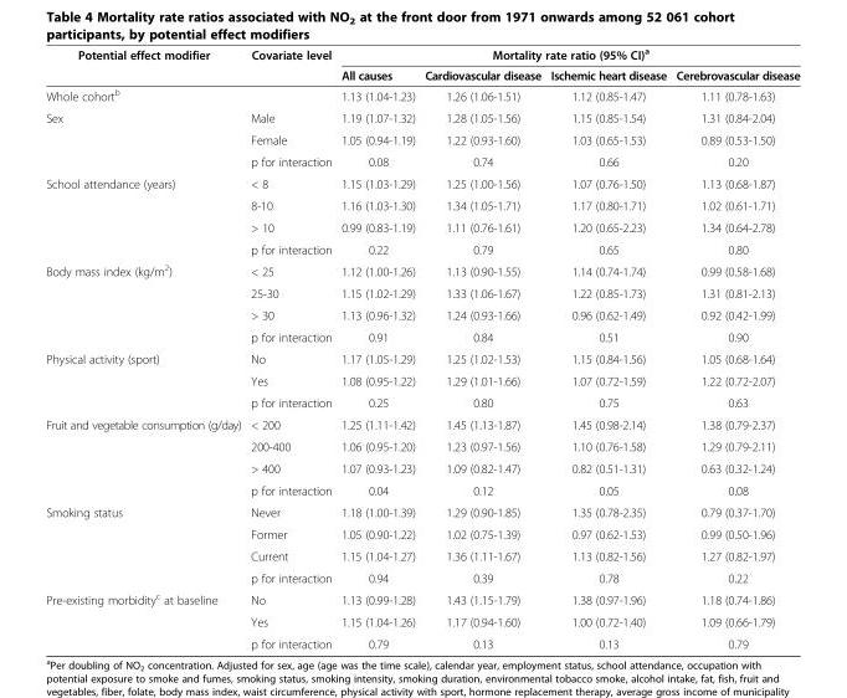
<table><thead><tr><td rowspan="2">Potential effect modifier</td><td rowspan="2">Covariate level</td><td colspan="4">Mortality rate ratio (95% CI)<sup>a</sup></td></tr><tr><td>All causes</td><td>Cardiovascular disease</td><td>Ischemic heart disease</td><td>Cerebrovascular disease</td></tr></thead><tbody><tr><td>Whole cohort<sup>b</sup></td><td></td><td>1.13 (1.04-1.23)</td><td>1.26 (1.06-1.51)</td><td>1.12 (0.85-1.47)</td><td>1.11 (0.78-1.63)</td></tr><tr><td rowspan="3">Sex</td><td>Male</td><td>1.19 (1.07-1.32)</td><td>1.28 (1.05-1.56)</td><td>1.15 (0.85-1.54)</td><td>1.31 (0.84-2.04)</td></tr><tr><td>Female</td><td>1.05 (0.94-1.19)</td><td>1.22 (0.93-1.60)</td><td>1.03 (0.65-1.53)</td><td>0.89 (0.53-1.50)</td></tr><tr><td>p for interaction</td><td>0.08</td><td>0.74</td><td>0.66</td><td>0.20</td></tr><tr><td rowspan="4">School attendance (years)</td><td>&lt; 8</td><td>1.15 (1.03-1.29)</td><td>1.25 (1.00-1.56)</td><td>1.07 (0.76-1.50)</td><td>1.13 (0.68-1.87)</td></tr><tr><td>8-10</td><td>1.16 (1.03-1.30)</td><td>1.34 (1.05-1.71)</td><td>1.17 (0.80-1.71)</td><td>1.02 (0.61-1.71)</td></tr><tr><td>&gt; 10</td><td>0.99 (0.83-1.19)</td><td>1.11 (0.76-1.61)</td><td>1.20 (0.65-2.23)</td><td>1.34 (0.64-2.78)</td></tr><tr><td>p for interaction</td><td>0.22</td><td>0.79</td><td>0.65</td><td>0.80</td></tr><tr><td rowspan="4">Body mass index (kg/m<sup>2</sup>)</td><td>&lt; 25</td><td>1.12 (1.00-1.26)</td><td>1.13 (0.90-1.55)</td><td>1.14 (0.74-1.74)</td><td>0.99 (0.58-1.68)</td></tr><tr><td>25-30</td><td>1.15 (1.02-1.29)</td><td>1.33 (1.06-1.67)</td><td>1.22 (0.85-1.73)</td><td>1.31 (0.81-2.13)</td></tr><tr><td>&gt; 30</td><td>1.13 (0.96-1.32)</td><td>1.24 (0.93-1.66)</td><td>0.96 (0.62-1.49)</td><td>0.92 (0.42-1.99)</td></tr><tr><td>p for interaction</td><td>0.91</td><td>0.84</td><td>0.51</td><td>0.90</td></tr><tr><td rowspan="3">Physical activity (sport)</td><td>No</td><td>1.17 (1.05-1.29)</td><td>1.25 (1.02-1.53)</td><td>1.15 (0.84-1.56)</td><td>1.05 (0.68-1.64)</td></tr><tr><td>Yes</td><td>1.08 (0.95-1.22)</td><td>1.29 (1.01-1.66)</td><td>1.07 (0.72-1.59)</td><td>1.22 (0.72-2.07)</td></tr><tr><td>p for interaction</td><td>0.25</td><td>0.80</td><td>0.75</td><td>0.63</td></tr><tr><td rowspan="4">Fruit and vegetable consumption (g/day)</td><td>&lt; 200</td><td>1.25 (1.11-1.42)</td><td>1.45 (1.13-1.87)</td><td>1.45 (0.98-2.14)</td><td>1.38 (0.79-2.37)</td></tr><tr><td>200-400</td><td>1.06 (0.95-1.20)</td><td>1.23 (0.97-1.56)</td><td>1.10 (0.76-1.58)</td><td>1.29 (0.79-2.11)</td></tr><tr><td>&gt; 400</td><td>1.07 (0.93-1.23)</td><td>1.09 (0.82-1.47)</td><td>0.82 (0.51-1.31)</td><td>0.63 (0.32-1.24)</td></tr><tr><td>p for interaction</td><td>0.04</td><td>0.12</td><td>0.05</td><td>0.08</td></tr><tr><td rowspan="4">Smoking status</td><td>Never</td><td>1.18 (1.00-1.39)</td><td>1.29 (0.90-1.85)</td><td>1.35 (0.78-2.35)</td><td>0.79 (0.37-1.70)</td></tr><tr><td>Former</td><td>1.05 (0.90-1.22)</td><td>1.02 (0.75-1.39)</td><td>0.97 (0.62-1.53)</td><td>0.99 (0.50-1.96)</td></tr><tr><td>Current</td><td>1.15 (1.04-1.27)</td><td>1.36 (1.11-1.67)</td><td>1.13 (0.82-1.56)</td><td>1.27 (0.82-1.97)</td></tr><tr><td>p for interaction</td><td>0.94</td><td>0.39</td><td>0.78</td><td>0.22</td></tr><tr><td rowspan="3">Pre-existing morbidity<sup>c</sup> at baseline</td><td>No</td><td>1.13 (0.99-1.28)</td><td>1.43 (1.15-1.79)</td><td>1.38 (0.97-1.96)</td><td>1.18 (0.74-1.86)</td></tr><tr><td>Yes</td><td>1.15 (1.04-1.26)</td><td>1.17 (0.94-1.60)</td><td>1.00 (0.72-1.40)</td><td>1.09 (0.66-1.79)</td></tr><tr><td>p for interaction</td><td>0.79</td><td>0.13</td><td>0.13</td><td>0.79</td></tr></tbody></table>